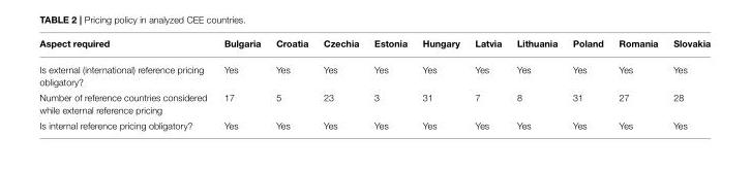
<table><thead><tr><td>Aspect required</td><td>Bulgaria</td><td>Croatia</td><td>Czechia</td><td>Estonia</td><td>Hungary</td><td>Latvia</td><td>Lithuania</td><td>Poland</td><td>Romania</td><td>Slovakia</td></tr></thead><tbody><tr><td>Is external (international) reference pricing obligatory?</td><td>Yes</td><td>Yes</td><td>Yes</td><td>Yes</td><td>Yes</td><td>Yes</td><td>Yes</td><td>Yes</td><td>Yes</td><td>Yes</td></tr><tr><td>Number of reference countries considered while external reference pricing</td><td>17</td><td>5</td><td>23</td><td>3</td><td>31</td><td>7</td><td>8</td><td>31</td><td>27</td><td>28</td></tr><tr><td>Is internal reference pricing obligatory?</td><td>Yes</td><td>Yes</td><td>Yes</td><td>Yes</td><td>Yes</td><td>Yes</td><td>Yes</td><td>Yes</td><td>Yes</td><td>Yes</td></tr></tbody></table>